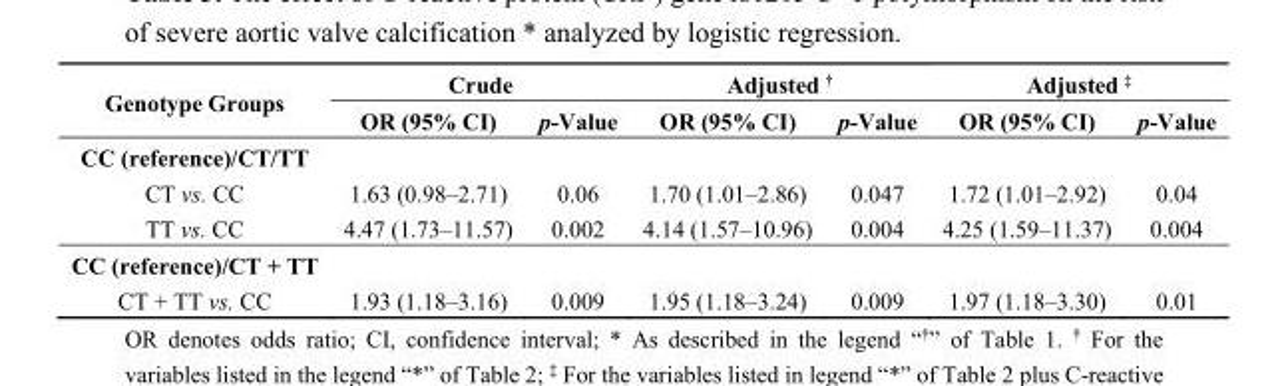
<table><thead><tr><td rowspan="2">Genotype Groups</td><td colspan="2">Crude</td><td colspan="2">Adjusted <sup>†</sup></td><td colspan="2">Adjusted <sup>‡</sup></td></tr><tr><td>OR (95% CI)</td><td>p-Value</td><td>OR (95% CI)</td><td>p-Value</td><td>OR (95% CI)</td><td>p-Value</td></tr></thead><tbody><tr><td colspan="7">CC (reference)/CT/TT</td></tr><tr><td>CT vs. CC</td><td>1.63 (0.98–2.71)</td><td>0.06</td><td>1.70 (1.01–2.86)</td><td>0.047</td><td>1.72 (1.01–2.92)</td><td>0.04</td></tr><tr><td>TT vs. CC</td><td>4.47 (1.73–11.57)</td><td>0.002</td><td>4.14 (1.57–10.96)</td><td>0.004</td><td>4.25 (1.59–11.37)</td><td>0.004</td></tr><tr><td colspan="7">CC (reference)/CT + TT</td></tr><tr><td>CT + TT vs. CC</td><td>1.93 (1.18–3.16)</td><td>0.009</td><td>1.95 (1.18–3.24)</td><td>0.009</td><td>1.97 (1.18–3.30)</td><td>0.01</td></tr></tbody></table>